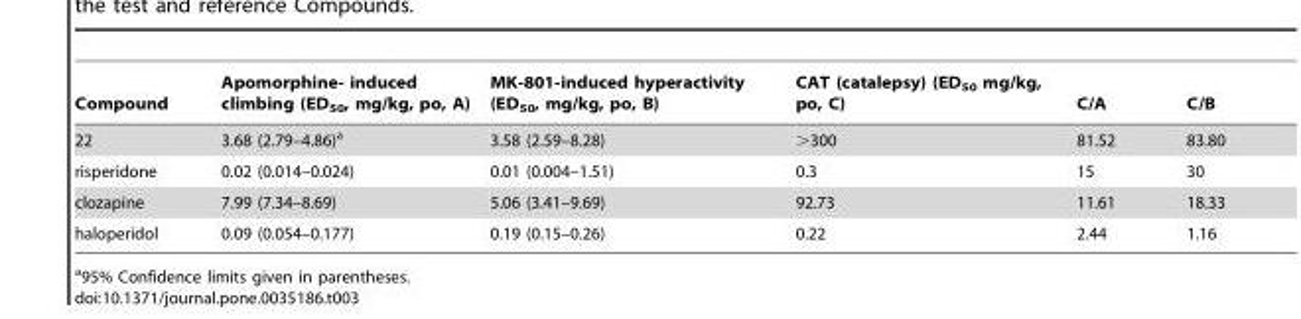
<table><thead><tr><td>Compound</td><td>Apomorphine- induced climbing (ED<sub>50</sub>, mg/kg, po, A)</td><td>MK-801-induced hyperactivity (ED<sub>50</sub>, mg/kg, po, B)</td><td>CAT (catalepsy) (ED<sub>50</sub> mg/kg, po, C)</td><td>C/A</td><td>C/B</td></tr></thead><tbody><tr><td>22</td><td>3.68 (2.79–4.86)<sup>a</sup></td><td>3.58 (2.59–8.28)</td><td>&gt;300</td><td>81.52</td><td>83.80</td></tr><tr><td>risperidone</td><td>0.02 (0.014–0.024)</td><td>0.01 (0.004–1.51)</td><td>0.3</td><td>15</td><td>30</td></tr><tr><td>clozapine</td><td>7.99 (7.34–8.69)</td><td>5.06 (3.41–9.69)</td><td>92.73</td><td>11.61</td><td>18.33</td></tr><tr><td>haloperidol</td><td>0.09 (0.054–0.177)</td><td>0.19 (0.15–0.26)</td><td>0.22</td><td>2.44</td><td>1.16</td></tr></tbody></table>